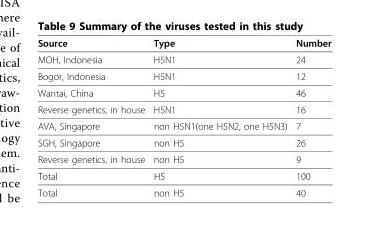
<table><thead><tr><td>Source</td><td>Type</td><td>Number</td></tr></thead><tbody><tr><td>MOH, Indonesia</td><td>H5N1</td><td>24</td></tr><tr><td>Bogor, Indonesia</td><td>H5N1</td><td>12</td></tr><tr><td>Wantai, China</td><td>H5</td><td>46</td></tr><tr><td>Reverse genetics, in house</td><td>H5N1</td><td>16</td></tr><tr><td>AVA, Singapore</td><td>non H5N1(one H5N2, one H5N3)</td><td>7</td></tr><tr><td>SGH, Singapore</td><td>non H5</td><td>26</td></tr><tr><td>Reverse genetics, in house</td><td>non H5</td><td>9</td></tr><tr><td>Total</td><td>H5</td><td>100</td></tr><tr><td>Total</td><td>non H5</td><td>40</td></tr></tbody></table>